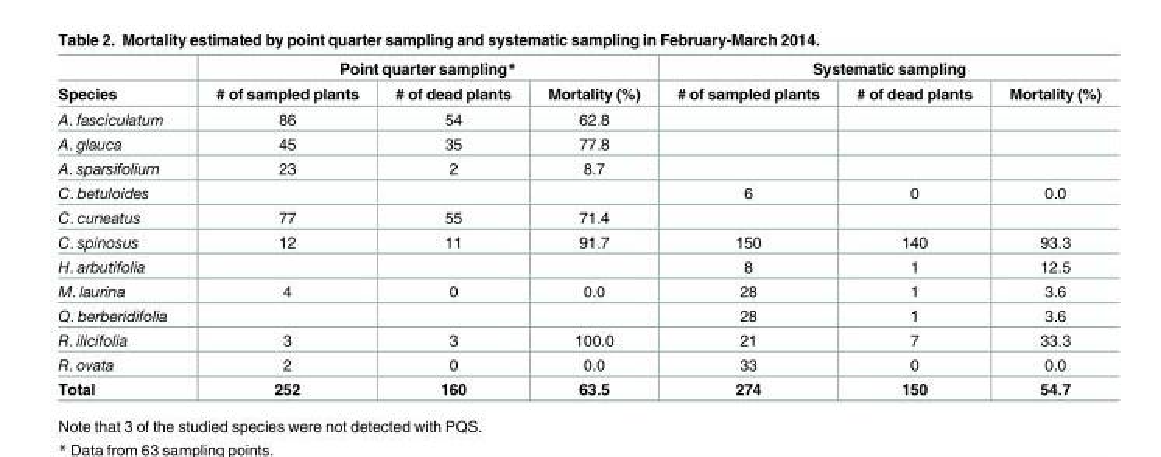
<table><thead><tr><td rowspan="2">Species</td><td colspan="3">Point quarter sampling*</td><td colspan="3">Systematic sampling</td></tr><tr><td># of sampled plants</td><td># of dead plants</td><td>Mortality (%)</td><td># of sampled plants</td><td># of dead plants</td><td>Mortality (%)</td></tr></thead><tbody><tr><td>A. fasciculatum</td><td>86</td><td>54</td><td>62.8</td><td></td><td></td><td></td></tr><tr><td>A. glauca</td><td>45</td><td>35</td><td>77.8</td><td></td><td></td><td></td></tr><tr><td>A. sparsifolium</td><td>23</td><td>2</td><td>8.7</td><td></td><td></td><td></td></tr><tr><td>C. betuloides</td><td></td><td></td><td></td><td>6</td><td>0</td><td>0.0</td></tr><tr><td>C. cuneatus</td><td>77</td><td>55</td><td>71.4</td><td></td><td></td><td></td></tr><tr><td>C. spinosus</td><td>12</td><td>11</td><td>91.7</td><td>150</td><td>140</td><td>93.3</td></tr><tr><td>H. arbutifolia</td><td></td><td></td><td></td><td>8</td><td>1</td><td>12.5</td></tr><tr><td>M. laurina</td><td>4</td><td>0</td><td>0.0</td><td>28</td><td>1</td><td>3.6</td></tr><tr><td>Q. berberidifolia</td><td></td><td></td><td></td><td>28</td><td>1</td><td>3.6</td></tr><tr><td>R. ilicifolia</td><td>3</td><td>3</td><td>100.0</td><td>21</td><td>7</td><td>33.3</td></tr><tr><td>R. ovata</td><td>2</td><td>0</td><td>0.0</td><td>33</td><td>0</td><td>0.0</td></tr><tr><td>Total</td><td>252</td><td>160</td><td>63.5</td><td>274</td><td>150</td><td>54.7</td></tr></tbody></table>